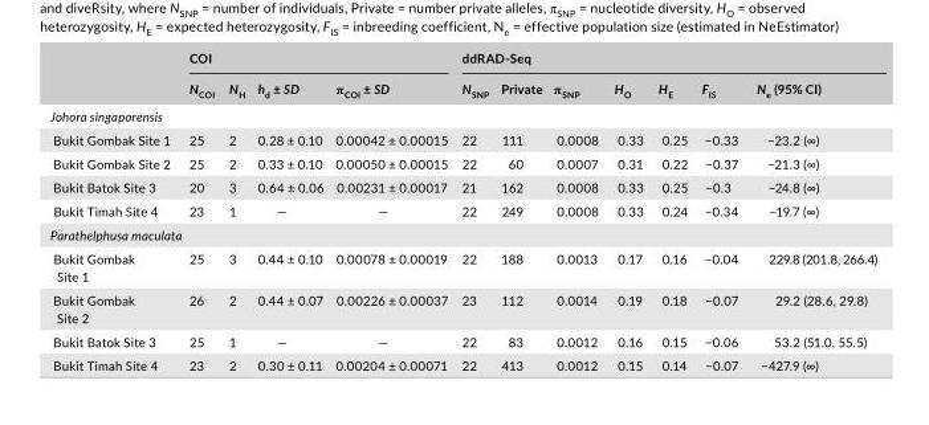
<table><thead><tr><td rowspan="2"></td><td colspan="4">COI</td><td colspan="7">ddRAD- Seq</td></tr><tr><td>N<sub>COI</sub></td><td>N<sub>H</sub></td><td>h<sub>d</sub> ± SD</td><td>π<sub>COI</sub> ± SD</td><td>N<sub>SNP</sub></td><td>Private</td><td>π<sub>SNP</sub></td><td>H<sub>O</sub></td><td>H<sub>E</sub></td><td>F<sub>IS</sub></td><td>N<sub>e</sub> (95% CI)</td></tr></thead><tbody><tr><td colspan="12">Johora singaporensis</td></tr><tr><td>Bukit Gombak Site 1</td><td>25</td><td>2</td><td>0.28 ± 0.10</td><td>0.00042 ± 0.00015</td><td>22</td><td>111</td><td>0.0008</td><td>0.33</td><td>0.25</td><td>−0.33</td><td>−23.2 (∞)</td></tr><tr><td>Bukit Gombak Site 2</td><td>25</td><td>2</td><td>0.33 ± 0.10</td><td>0.00050 ± 0.00015</td><td>22</td><td>60</td><td>0.0007</td><td>0.31</td><td>0.22</td><td>−0.37</td><td>−21.3 (∞)</td></tr><tr><td>Bukit Batok Site 3</td><td>20</td><td>3</td><td>0.64 ± 0.06</td><td>0.00231 ± 0.00017</td><td>21</td><td>162</td><td>0.0008</td><td>0.33</td><td>0.25</td><td>−0.3</td><td>−24.8 (∞)</td></tr><tr><td>Bukit Timah Site 4</td><td>23</td><td>1</td><td>—</td><td>—</td><td>22</td><td>249</td><td>0.0008</td><td>0.33</td><td>0.24</td><td>−0.34</td><td>−19.7 (∞)</td></tr><tr><td colspan="12">Parathelphusa maculata</td></tr><tr><td>Bukit Gombak Site 1</td><td>25</td><td>3</td><td>0.44 ± 0.10</td><td>0.00078 ± 0.00019</td><td>22</td><td>188</td><td>0.0013</td><td>0.17</td><td>0.16</td><td>−0.04</td><td>229.8 (201.8, 266.4)</td></tr><tr><td>Bukit Gombak Site 2</td><td>26</td><td>2</td><td>0.44 ± 0.07</td><td>0.00226 ± 0.00037</td><td>23</td><td>112</td><td>0.0014</td><td>0.19</td><td>0.18</td><td>−0.07</td><td>29.2 (28.6, 29.8)</td></tr><tr><td>Bukit Batok Site 3</td><td>25</td><td>1</td><td>—</td><td>—</td><td>22</td><td>83</td><td>0.0012</td><td>0.16</td><td>0.15</td><td>−0.06</td><td>53.2 (51.0, 55.5)</td></tr><tr><td>Bukit Timah Site 4</td><td>23</td><td>2</td><td>0.30 ± 0.11</td><td>0.00204 ± 0.00071</td><td>22</td><td>413</td><td>0.0012</td><td>0.15</td><td>0.14</td><td>−0.07</td><td>−427.9 (∞)</td></tr></tbody></table>